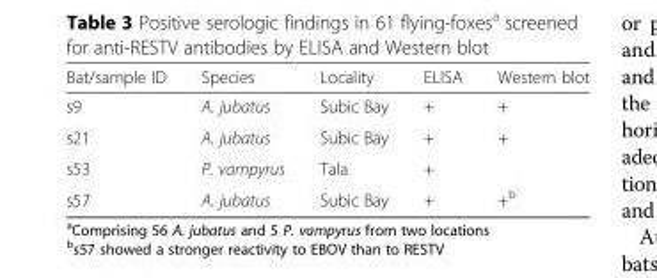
<table><thead><tr><td>Bat/sample ID</td><td>Species</td><td>Locality</td><td>ELISA</td><td>Western blot</td></tr></thead><tbody><tr><td>s9</td><td>A. jubatus</td><td>Subic Bay</td><td>+</td><td>+</td></tr><tr><td>s21</td><td>A. jubatus</td><td>Subic Bay</td><td>+</td><td>+</td></tr><tr><td>s53</td><td>P. vampyrus</td><td>Tala</td><td>+</td><td></td></tr><tr><td>s57</td><td>A. jubatus</td><td>Subic Bay</td><td>+</td><td>+<sup>b</sup></td></tr></tbody></table>